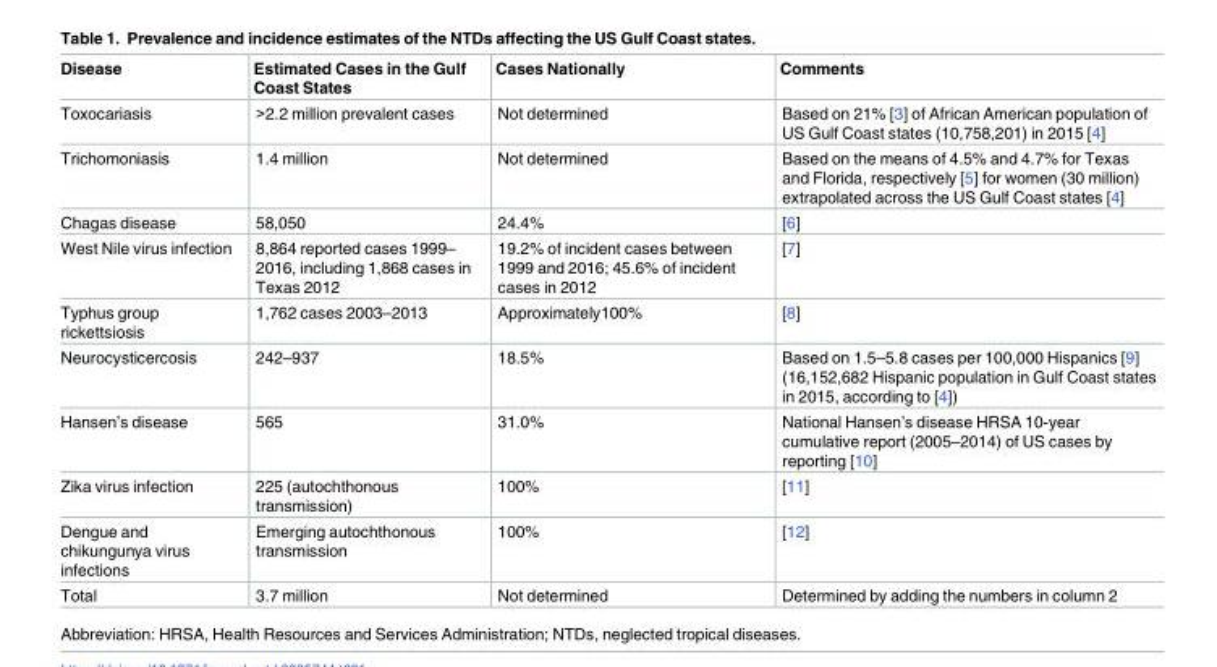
<table><thead><tr><td>Disease</td><td>Estimated Cases in the Gulf Coast States</td><td>Cases Nationally</td><td>Comments</td></tr></thead><tbody><tr><td>Toxocariasis</td><td>&gt;2.2 million prevalent cases</td><td>Not determined</td><td>Based on 21% [3] of African American population of US Gulf Coast states (10,758,201) in 2015 [4]</td></tr><tr><td>Trichomoniasis</td><td>1.4 million</td><td>Not determined</td><td>Based on the means of 4.5% and 4.7% for Texas and Florida, respectively [5] for women (30 million) extrapolated across the US Gulf Coast states [4]</td></tr><tr><td>Chagas disease</td><td>58,050</td><td>24.4%</td><td>[6]</td></tr><tr><td>West Nile virus infection</td><td>8,864 reported cases 1999– 2016, including 1,868 cases in Texas 2012</td><td>19.2% of incident cases between 1999 and 2016; 45.6% of incident cases in 2012</td><td>[7]</td></tr><tr><td>Typhus group rickettsiosis</td><td>1,762 cases 2003–2013</td><td>Approximately100%</td><td>[8]</td></tr><tr><td>Neurocysticercosis</td><td>242–937</td><td>18.5%</td><td>Based on 1.5–5.8 cases per 100,000 Hispanics [9] (16,152,682 Hispanic population in Gulf Coast states in 2015, according to [4])</td></tr><tr><td>Hansen’s disease</td><td>565</td><td>31.0%</td><td>National Hansen’s disease HRSA 10-year cumulative report (2005–2014) of US cases by reporting [10]</td></tr><tr><td>Zika virus infection</td><td>225 (autochthonous transmission)</td><td>100%</td><td>[11]</td></tr><tr><td>Dengue and chikungunya virus infections</td><td>Emerging autochthonous transmission</td><td>100%</td><td>[12]</td></tr><tr><td>Total</td><td>3.7 million</td><td>Not determined</td><td>Determined by adding the numbers in column 2</td></tr></tbody></table>